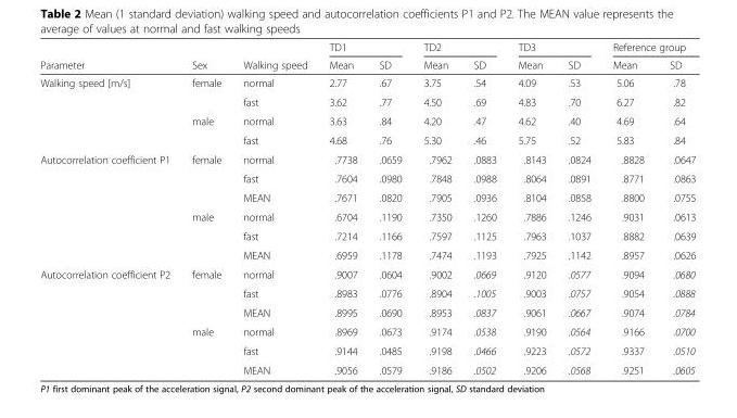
<table><thead><tr><td rowspan="2">Parameter</td><td rowspan="2">Sex</td><td rowspan="2">Walking speed</td><td colspan="2">TD1</td><td colspan="2">TD2</td><td colspan="2">TD3</td><td colspan="2">Reference group</td></tr><tr><td>Mean</td><td>SD</td><td>Mean</td><td>SD</td><td>Mean</td><td>SD</td><td>Mean</td><td>SD</td></tr></thead><tbody><tr><td rowspan="4">Walking speed [m/s]</td><td rowspan="2">female</td><td>normal</td><td>2.77</td><td>.67</td><td>3.75</td><td>.54</td><td>4.09</td><td>.53</td><td>5.06</td><td>.78</td></tr><tr><td>fast</td><td>3.62</td><td>.77</td><td>4.50</td><td>.69</td><td>4.83</td><td>.70</td><td>6.27</td><td>.82</td></tr><tr><td rowspan="2">male</td><td>normal</td><td>3.63</td><td>.84</td><td>4.20</td><td>.47</td><td>4.62</td><td>.40</td><td>4.69</td><td>.64</td></tr><tr><td>fast</td><td>4.68</td><td>.76</td><td>5.30</td><td>.46</td><td>5.75</td><td>.52</td><td>5.83</td><td>.84</td></tr><tr><td rowspan="6">Autocorrelation coefficient P1</td><td rowspan="3">female</td><td>normal</td><td>.7738</td><td>.0659</td><td>.7962</td><td>.0883</td><td>.8143</td><td>.0824</td><td>.8828</td><td>.0647</td></tr><tr><td>fast</td><td>.7604</td><td>.0980</td><td>.7848</td><td>.0988</td><td>.8064</td><td>.0891</td><td>.8771</td><td>.0863</td></tr><tr><td>MEAN</td><td>.7671</td><td>.0820</td><td>.7905</td><td>.0936</td><td>.8104</td><td>.0858</td><td>.8800</td><td>.0755</td></tr><tr><td rowspan="3">male</td><td>normal</td><td>.6704</td><td>.1190</td><td>.7350</td><td>.1260</td><td>.7886</td><td>.1246</td><td>.9031</td><td>.0613</td></tr><tr><td>fast</td><td>.7214</td><td>.1166</td><td>.7597</td><td>.1125</td><td>.7963</td><td>.1037</td><td>.8882</td><td>.0639</td></tr><tr><td>MEAN</td><td>.6959</td><td>.1178</td><td>.7474</td><td>.1193</td><td>.7925</td><td>.1142</td><td>.8957</td><td>.0626</td></tr><tr><td rowspan="6">Autocorrelation coefficient P2</td><td rowspan="3">female</td><td>normal</td><td>.9007</td><td>.0604</td><td>.9002</td><td>.0669</td><td>.9120</td><td>.0577</td><td>.9094</td><td>.0680</td></tr><tr><td>fast</td><td>.8983</td><td>.0776</td><td>.8904</td><td>.1005</td><td>.9003</td><td>.0757</td><td>.9054</td><td>.0888</td></tr><tr><td>MEAN</td><td>.8995</td><td>.0690</td><td>.8953</td><td>.0837</td><td>.9061</td><td>.0667</td><td>.9074</td><td>.0784</td></tr><tr><td rowspan="3">male</td><td>normal</td><td>.8969</td><td>.0673</td><td>.9174</td><td>.0538</td><td>.9190</td><td>.0564</td><td>.9166</td><td>.0700</td></tr><tr><td>fast</td><td>.9144</td><td>.0485</td><td>.9198</td><td>.0466</td><td>.9223</td><td>.0572</td><td>.9337</td><td>.0510</td></tr><tr><td>MEAN</td><td>.9056</td><td>.0579</td><td>.9186</td><td>.0502</td><td>.9206</td><td>.0568</td><td>.9251</td><td>.0605</td></tr></tbody></table>